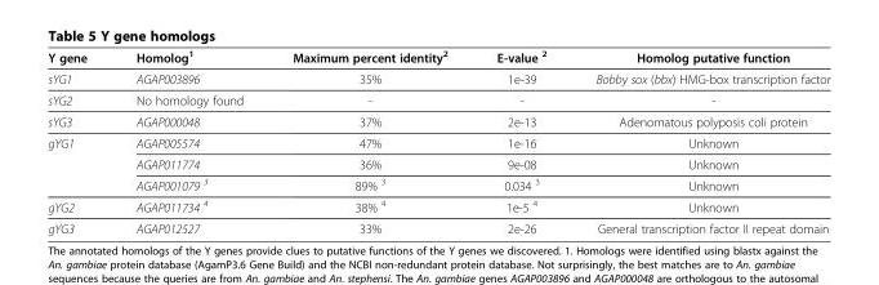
<table><thead><tr><td>Y gene</td><td>Homolog<sup>1</sup></td><td>Maximum percent identity<sup>2</sup></td><td>E-value <sup>2</sup></td><td>Homolog putative function</td></tr></thead><tbody><tr><td>sYG1</td><td>AGAP003896</td><td>35%</td><td>1e-39</td><td>Bobby sox (bbx) HMG-box transcription factor</td></tr><tr><td>sYG2</td><td>No homology found</td><td>-</td><td>-</td><td>-</td></tr><tr><td>sYG3</td><td>AGAP000048</td><td>37%</td><td>2e-13</td><td>Adenomatous polyposis coli protein</td></tr><tr><td rowspan="3">gYG1</td><td>AGAP005574</td><td>47%</td><td>1e-16</td><td>Unknown</td></tr><tr><td>AGAP011774</td><td>36%</td><td>9e-08</td><td>Unknown</td></tr><tr><td>AGAP001079 <sup>3</sup></td><td>89% <sup>3</sup></td><td>0.034 <sup>3</sup></td><td>Unknown</td></tr><tr><td>gYG2</td><td>AGAP011734 <sup>4</sup></td><td>38% <sup>4</sup></td><td>1e-5 <sup>4</sup></td><td>Unknown</td></tr><tr><td>gYG3</td><td>AGAP012527</td><td>33%</td><td>2e-26</td><td>General transcription factor II repeat domain</td></tr></tbody></table>